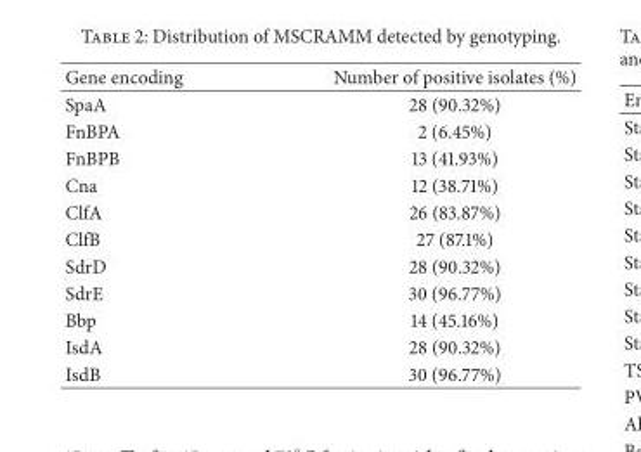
<table><thead><tr><td>Gene encoding</td><td>Number of positive isolates (%)</td></tr></thead><tbody><tr><td>SpaA</td><td>28 (90.32%)</td></tr><tr><td>FnBPA</td><td>2 (6.45%)</td></tr><tr><td>FnBPB</td><td>13 (41.93%)</td></tr><tr><td>Cna</td><td>12 (38.71%)</td></tr><tr><td>ClfA</td><td>26 (83.87%)</td></tr><tr><td>ClfB</td><td>27 (87.1%)</td></tr><tr><td>SdrD</td><td>28 (90.32%)</td></tr><tr><td>SdrE</td><td>30 (96.77%)</td></tr><tr><td>Bbp</td><td>14 (45.16%)</td></tr><tr><td>IsdA</td><td>28 (90.32%)</td></tr><tr><td>IsdB</td><td>30 (96.77%)</td></tr></tbody></table>